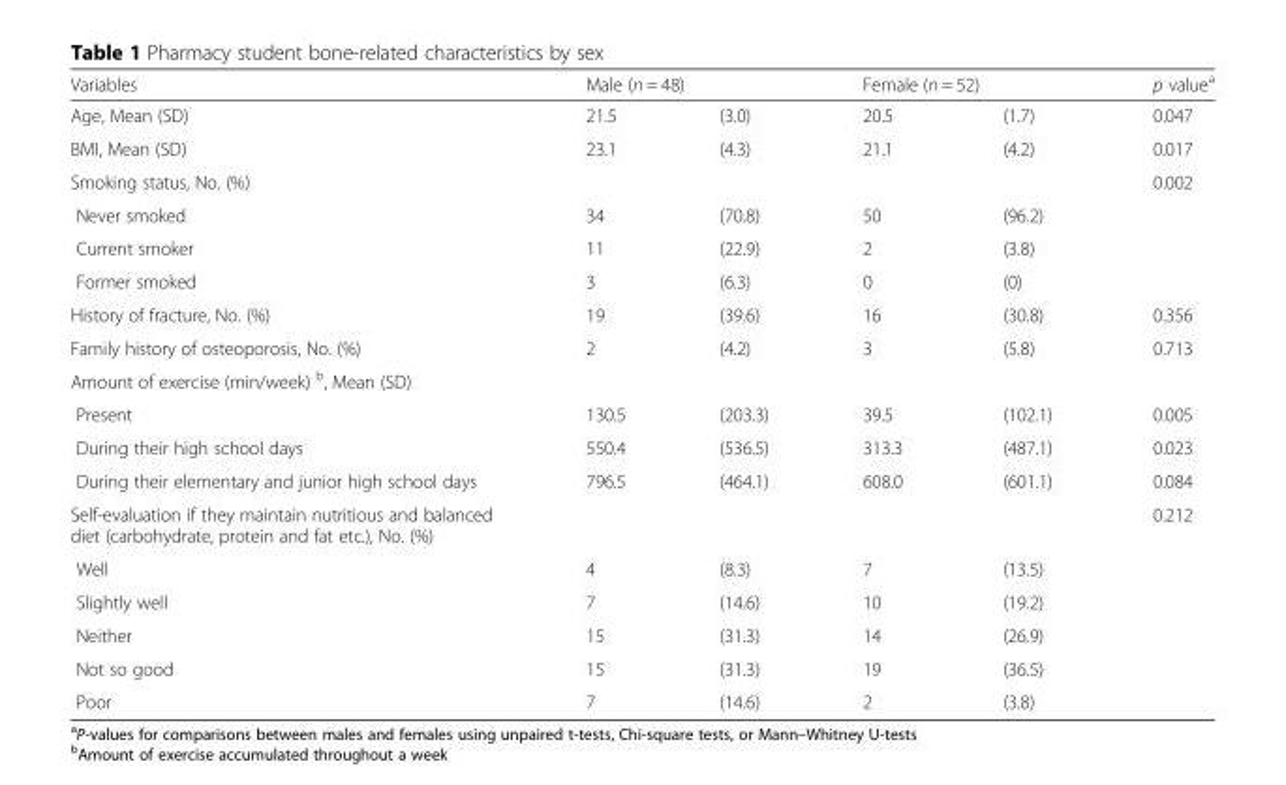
<table><thead><tr><td rowspan="2">Variables Age, Mean (SD)</td><td colspan="2">Male (n = 48)</td><td colspan="2">Female (n = 52)</td><td rowspan="2">p value<sup>a</sup> 0.047</td></tr><tr><td>21.5</td><td>(3.0)</td><td>20.5</td><td>(1.7)</td></tr></thead><tbody><tr><td>BMI, Mean (SD)</td><td>23.1</td><td>(4.3)</td><td>21.1</td><td>(4.2)</td><td>0.017</td></tr><tr><td>Smoking status, No. (%)</td><td></td><td></td><td></td><td></td><td>0.002</td></tr><tr><td>Never smoked</td><td>34</td><td>(70.8)</td><td>50</td><td>(96.2)</td><td></td></tr><tr><td>Current smoker</td><td>11</td><td>(22.9)</td><td>2</td><td>(3.8)</td><td></td></tr><tr><td>Former smoked</td><td>3</td><td>(6.3)</td><td>0</td><td>(0)</td><td></td></tr><tr><td>History of fracture, No. (%)</td><td>19</td><td>(39.6)</td><td>16</td><td>(30.8)</td><td>0.356</td></tr><tr><td>Family history of osteoporosis, No. (%)</td><td>2</td><td>(4.2)</td><td>3</td><td>(5.8)</td><td>0.713</td></tr><tr><td colspan="6">Amount of exercise (min/week) <sup>b</sup>, Mean (SD)</td></tr><tr><td>Present</td><td>130.5</td><td>(203.3)</td><td>39.5</td><td>(102.1)</td><td>0.005</td></tr><tr><td>During their high school days</td><td>550.4</td><td>(536.5)</td><td>313.3</td><td>(487.1)</td><td>0.023</td></tr><tr><td>During their elementary and junior high school days</td><td>796.5</td><td>(464.1)</td><td>608.0</td><td>(601.1)</td><td>0.084</td></tr><tr><td>Self-evaluation if they maintain nutritious and balanced diet (carbohydrate, protein and fat etc.), No. (%)</td><td></td><td></td><td></td><td></td><td>0.212</td></tr><tr><td>Well</td><td>4</td><td>(8.3)</td><td>7</td><td>(13.5)</td><td></td></tr><tr><td>Slightly well</td><td>7</td><td>(14.6)</td><td>10</td><td>(19.2)</td><td></td></tr><tr><td>Neither</td><td>15</td><td>(31.3)</td><td>14</td><td>(26.9)</td><td></td></tr><tr><td>Not so good</td><td>15</td><td>(31.3)</td><td>19</td><td>(36.5)</td><td></td></tr><tr><td>Poor</td><td>7</td><td>(14.6)</td><td>2</td><td>(3.8)</td><td></td></tr></tbody></table>